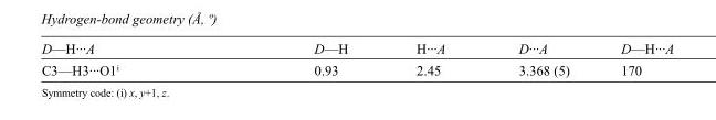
<table><tbody><tr><td>D—H···A</td><td>D—H</td><td>H···A</td><td>D···A</td><td>D—H···A</td></tr><tr><td>C3—H3···O1<sup>i</sup></td><td>0.93</td><td>2.45</td><td>3.368 (5)</td><td>170</td></tr></tbody></table>